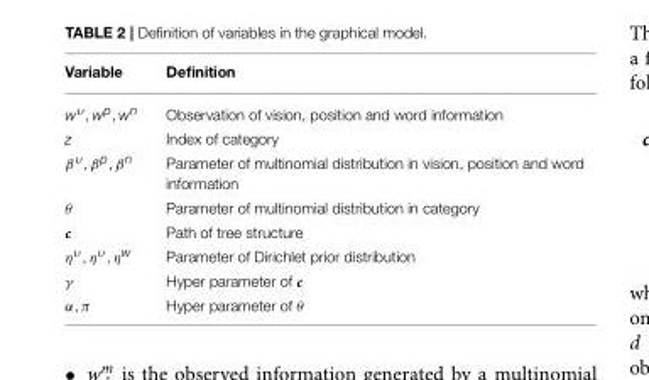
<table><thead><tr><td>Variable</td><td>Definition</td></tr></thead><tbody><tr><td>w<sup>υ</sup>, w<sup>p</sup>, w<sup>n</sup></td><td>Observation of vision, position and word information</td></tr><tr><td>z</td><td>Index of category</td></tr><tr><td>β<sup>υ</sup>, β<sup>p</sup>, β<sup>n</sup></td><td>Parameter of multinomial distribution in vision, position and word information</td></tr><tr><td>θ</td><td>Parameter of multinomial distribution in category</td></tr><tr><td>c</td><td>Path of tree structure</td></tr><tr><td>η<sup>υ</sup>, η<sup>υ</sup>, η<sup>w</sup></td><td>Parameter of Dirichlet prior distribution</td></tr><tr><td>γ</td><td>Hyper parameter of c</td></tr><tr><td>α, π</td><td>Hyper parameter of θ</td></tr></tbody></table>